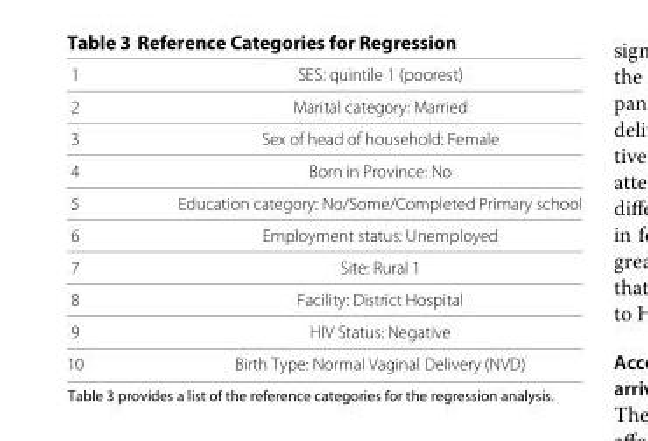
<table><thead><tr><td>1</td><td>SES: quintile 1 (poorest)</td></tr></thead><tbody><tr><td>2</td><td>Marital category: Married</td></tr><tr><td>3</td><td>Sex of head of household: Female</td></tr><tr><td>4</td><td>Born in Province: No</td></tr><tr><td>5</td><td>Education category: No/Some/Completed Primary school</td></tr><tr><td>6</td><td>Employment status: Unemployed</td></tr><tr><td>7</td><td>Site: Rural 1</td></tr><tr><td>8</td><td>Facility: District Hospital</td></tr><tr><td>9</td><td>HIV Status: Negative</td></tr><tr><td>10</td><td>Birth Type: Normal Vaginal Delivery (NVD)</td></tr></tbody></table>